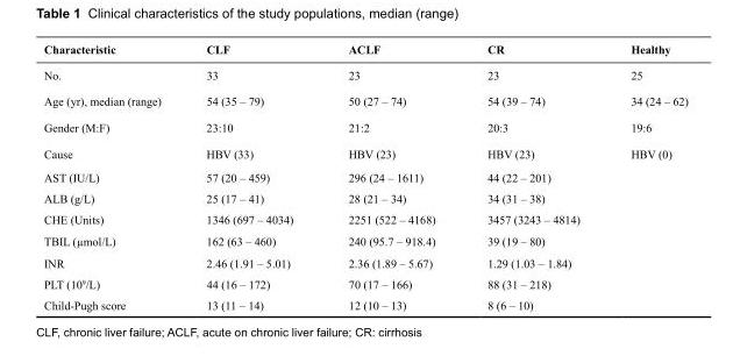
<table><thead><tr><td>Characteristic</td><td>CLF</td><td>ACLF</td><td>CR</td><td>Healthy</td></tr></thead><tbody><tr><td>No.</td><td>33</td><td>23</td><td>23</td><td>25</td></tr><tr><td>Age (yr), median (range)</td><td>54 (35 – 79)</td><td>50 (27 – 74)</td><td>54 (39 – 74)</td><td>34 (24 – 62)</td></tr><tr><td>Gender (M:F)</td><td>23:10</td><td>21:2</td><td>20:3</td><td>19:6</td></tr><tr><td>Cause</td><td>HBV (33)</td><td>HBV (23)</td><td>HBV (23)</td><td>HBV (0)</td></tr><tr><td>AST (IU/L)</td><td>57 (20 – 459)</td><td>296 (24 – 1611)</td><td>44 (22 – 201)</td><td></td></tr><tr><td>ALB (g/L)</td><td>25 (17 – 41)</td><td>28 (21 – 34)</td><td>34 (31 – 38)</td><td></td></tr><tr><td>CHE (Units)</td><td>1346 (697 – 4034)</td><td>2251 (522 – 4168)</td><td>3457 (3243 – 4814)</td><td></td></tr><tr><td>TBIL (µmol/L)</td><td>162 (63 – 460)</td><td>240 (95.7 – 918.4)</td><td>39 (19 – 80)</td><td></td></tr><tr><td>INR</td><td>2.46 (1.91 – 5.01)</td><td>2.36 (1.89 – 5.67)</td><td>1.29 (1.03 – 1.84)</td><td></td></tr><tr><td>PLT (10<sup>9</sup>/L)</td><td>44 (16 – 172)</td><td>70 (17 – 166)</td><td>88 (31 – 218)</td><td></td></tr><tr><td>Child-Pugh score</td><td>13 (11 – 14)</td><td>12 (10 – 13)</td><td>8 (6 – 10)</td><td></td></tr></tbody></table>